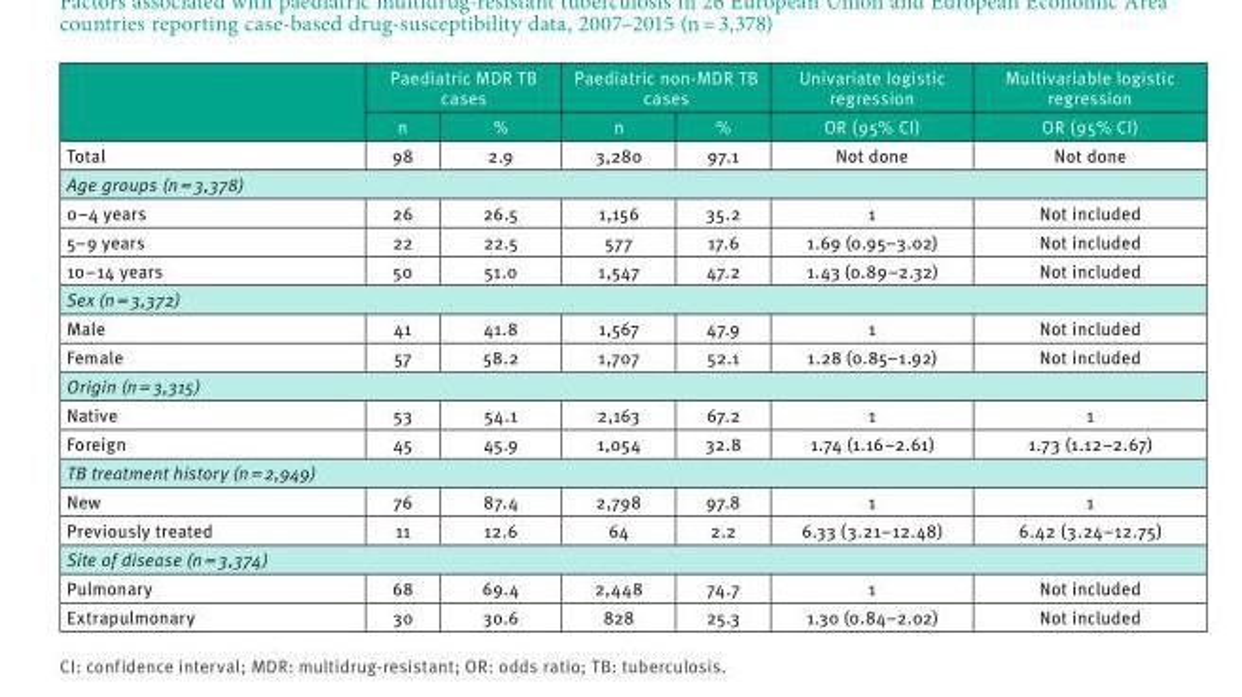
<table><thead><tr><td rowspan="2"></td><td colspan="2">Paediatric MDR TB cases</td><td colspan="2">Paediatric non-MDR TB cases</td><td rowspan="2">Univariate logistic regression OR (95% CI)</td><td rowspan="2">Multivariable logistic regression OR (95% CI)</td></tr><tr><td>n</td><td>%</td><td>n</td><td>%</td></tr></thead><tbody><tr><td>Total</td><td>98</td><td>2.9</td><td>3,280</td><td>97.1</td><td>Not done</td><td>Not done</td></tr><tr><td colspan="7">Age groups (n = 3,378)</td></tr><tr><td>0–4 years</td><td>26</td><td>26.5</td><td>1,156</td><td>35.2</td><td>1</td><td>Not included</td></tr><tr><td>5–9 years</td><td>22</td><td>22.5</td><td>577</td><td>17.6</td><td>1.69 (0.95–3.02)</td><td>Not included</td></tr><tr><td>10–14 years</td><td>50</td><td>51.0</td><td>1,547</td><td>47.2</td><td>1.43 (0.89–2.32)</td><td>Not included</td></tr><tr><td colspan="7">Sex (n = 3,372)</td></tr><tr><td>Male</td><td>41</td><td>41.8</td><td>1,567</td><td>47.9</td><td>1</td><td>Not included</td></tr><tr><td>Female</td><td>57</td><td>58.2</td><td>1,707</td><td>52.1</td><td>1.28 (0.85–1.92)</td><td>Not included</td></tr><tr><td colspan="7">Origin (n = 3,315)</td></tr><tr><td>Native</td><td>53</td><td>54.1</td><td>2,163</td><td>67.2</td><td>1</td><td>1</td></tr><tr><td>Foreign</td><td>45</td><td>45.9</td><td>1,054</td><td>32.8</td><td>1.74 (1.16–2.61)</td><td>1.73 (1.12–2.67)</td></tr><tr><td colspan="7">TB treatment history (n = 2,949)</td></tr><tr><td>New</td><td>76</td><td>87.4</td><td>2,798</td><td>97.8</td><td>1</td><td>1</td></tr><tr><td>Previously treated</td><td>11</td><td>12.6</td><td>64</td><td>2.2</td><td>6.33 (3.21–12.48)</td><td>6.42 (3.24–12.75)</td></tr><tr><td colspan="7">Site of disease (n = 3,374)</td></tr><tr><td>Pulmonary</td><td>68</td><td>69.4</td><td>2,448</td><td>74.7</td><td>1</td><td>Not included</td></tr><tr><td>Extrapulmonary</td><td>30</td><td>30.6</td><td>828</td><td>25.3</td><td>1.30 (0.84–2.02)</td><td>Not included</td></tr></tbody></table>